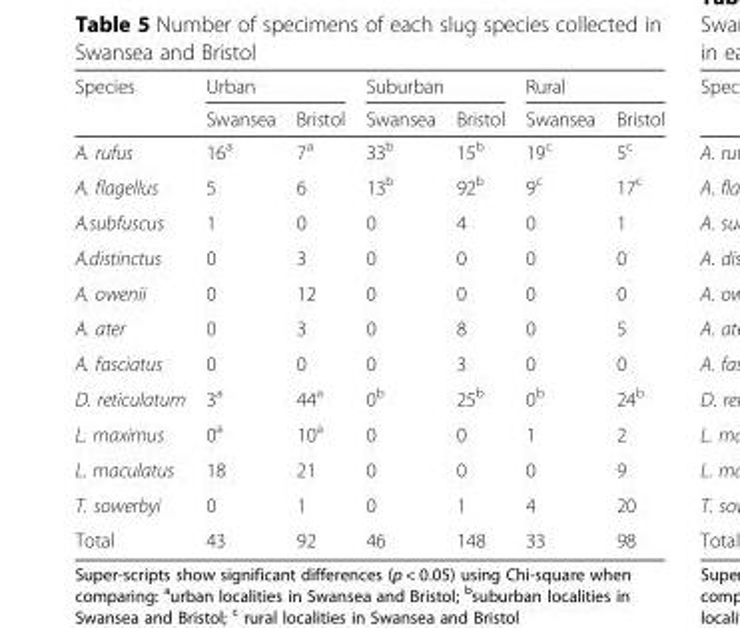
<table><thead><tr><td rowspan="2">Species</td><td colspan="2">Urban</td><td colspan="2">Suburban</td><td colspan="2">Rural</td></tr><tr><td>Swansea</td><td>Bristol</td><td>Swansea</td><td>Bristol</td><td>Swansea</td><td>Bristol</td></tr></thead><tbody><tr><td>A. rufus</td><td>16<sup>a</sup></td><td>7<sup>a</sup></td><td>33<sup>b</sup></td><td>15<sup>b</sup></td><td>19<sup>c</sup></td><td>5<sup>c</sup></td></tr><tr><td>A. flagellus</td><td>5</td><td>6</td><td>13<sup>b</sup></td><td>92<sup>b</sup></td><td>9<sup>c</sup></td><td>17<sup>c</sup></td></tr><tr><td>A.subfuscus</td><td>1</td><td>0</td><td>0</td><td>4</td><td>0</td><td>1</td></tr><tr><td>A.distinctus</td><td>0</td><td>3</td><td>0</td><td>0</td><td>0</td><td>0</td></tr><tr><td>A. owenii</td><td>0</td><td>12</td><td>0</td><td>0</td><td>0</td><td>0</td></tr><tr><td>A. ater</td><td>0</td><td>3</td><td>0</td><td>8</td><td>0</td><td>5</td></tr><tr><td>A. fasciatus</td><td>0</td><td>0</td><td>0</td><td>3</td><td>0</td><td>0</td></tr><tr><td>D. reticulatum</td><td>3<sup>a</sup></td><td>44<sup>a</sup></td><td>0<sup>b</sup></td><td>25<sup>b</sup></td><td>0<sup>b</sup></td><td>24<sup>b</sup></td></tr><tr><td>L. maximus</td><td>0<sup>a</sup></td><td>10<sup>a</sup></td><td>0</td><td>0</td><td>1</td><td>2</td></tr><tr><td>L. maculatus</td><td>18</td><td>21</td><td>0</td><td>0</td><td>0</td><td>9</td></tr><tr><td>T. sowerbyi</td><td>0</td><td>1</td><td>0</td><td>1</td><td>4</td><td>20</td></tr><tr><td>Total</td><td>43</td><td>92</td><td>46</td><td>148</td><td>33</td><td>98</td></tr></tbody></table>